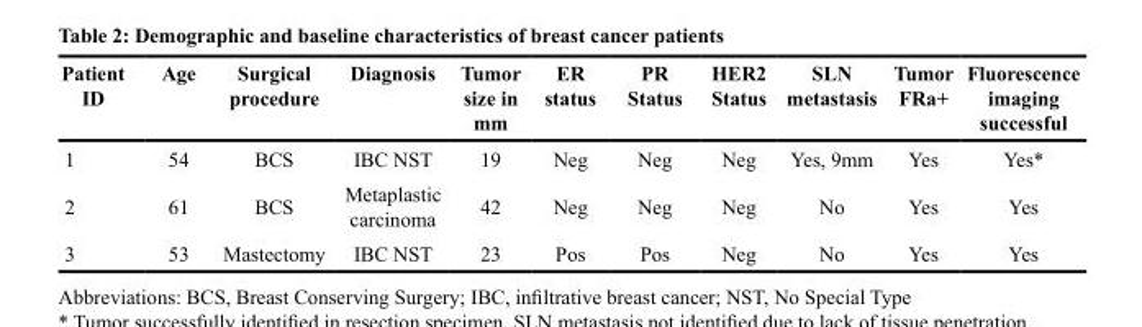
<table><thead><tr><td>Patient ID</td><td>Age</td><td>Surgical procedure</td><td>Diagnosis</td><td>Tumor size in mm</td><td>ER status</td><td>PR Status</td><td>HER2 Status</td><td>SLN metastasis</td><td>Tumor FRa+</td><td>Fluorescence imaging successful</td></tr></thead><tbody><tr><td>1</td><td>54</td><td>BCS</td><td>IBC NST</td><td>19</td><td>Neg</td><td>Neg</td><td>Neg</td><td>Yes, 9mm</td><td>Yes</td><td>Yes*</td></tr><tr><td>2</td><td>61</td><td>BCS</td><td>Metaplastic carcinoma</td><td>42</td><td>Neg</td><td>Neg</td><td>Neg</td><td>No</td><td>Yes</td><td>Yes</td></tr><tr><td>3</td><td>53</td><td>Mastectomy</td><td>IBC NST</td><td>23</td><td>Pos</td><td>Pos</td><td>Neg</td><td>No</td><td>Yes</td><td>Yes</td></tr></tbody></table>